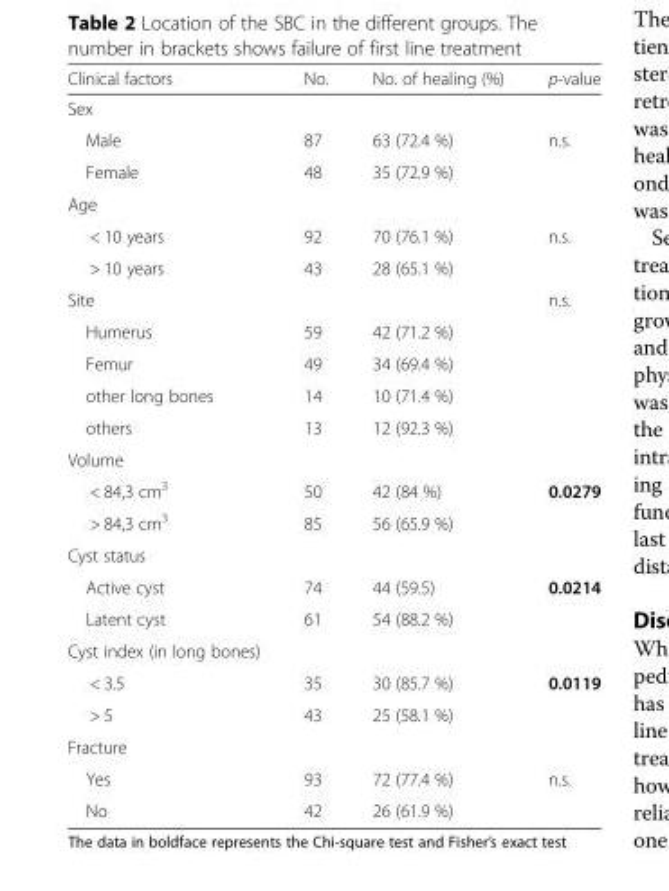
<table><thead><tr><td>Clinical factors</td><td>No.</td><td>No. of healing (%)</td><td>p-value</td></tr></thead><tbody><tr><td colspan="4">Sex</td></tr><tr><td>Male</td><td>87</td><td>63 (72.4 %)</td><td rowspan="2">n.s.</td></tr><tr><td>Female</td><td>48</td><td>35 (72.9 %)</td></tr><tr><td colspan="4">Age</td></tr><tr><td>&lt; 10 years</td><td>92</td><td>70 (76.1 %)</td><td rowspan="2">n.s.</td></tr><tr><td>&gt; 10 years</td><td>43</td><td>28 (65.1 %)</td></tr><tr><td colspan="3">Site</td><td rowspan="5">n.s.</td></tr><tr><td>Humerus</td><td>59</td><td>42 (71.2 %)</td></tr><tr><td>Femur</td><td>49</td><td>34 (69.4 %)</td></tr><tr><td>other long bones</td><td>14</td><td>10 (71.4 %)</td></tr><tr><td>others</td><td>13</td><td>12 (92.3 %)</td></tr><tr><td colspan="4">Volume</td></tr><tr><td>&lt; 84,3 cm<sup>3</sup></td><td>50</td><td>42 (84 %)</td><td rowspan="2">0.0279</td></tr><tr><td>&gt; 84,3 cm<sup>3</sup></td><td>85</td><td>56 (65.9 %)</td></tr><tr><td colspan="4">Cyst status</td></tr><tr><td>Active cyst</td><td>74</td><td>44 (59.5)</td><td rowspan="2">0.0214</td></tr><tr><td>Latent cyst</td><td>61</td><td>54 (88.2 %)</td></tr><tr><td colspan="4">Cyst index (in long bones)</td></tr><tr><td>&lt; 3.5</td><td>35</td><td>30 (85.7 %)</td><td rowspan="2">0.0119</td></tr><tr><td>&gt; 5</td><td>43</td><td>25 (58.1 %)</td></tr><tr><td colspan="4">Fracture</td></tr><tr><td>Yes</td><td>93</td><td>72 (77.4 %)</td><td rowspan="2">n.s.</td></tr><tr><td>No</td><td>42</td><td>26 (61.9 %)</td></tr></tbody></table>